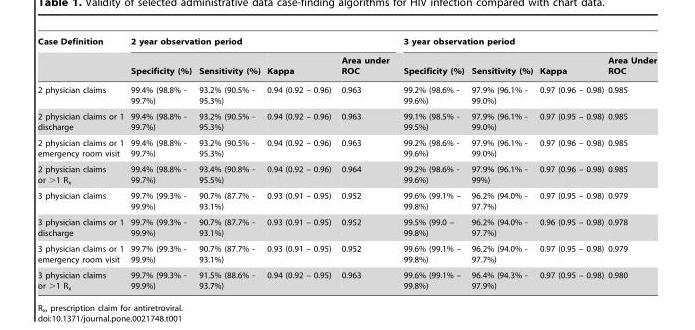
<table><thead><tr><td rowspan="2">Case Definition</td><td colspan="4">2 year observation period</td><td colspan="4">3 year observation period</td></tr><tr><td>Specificity (%)</td><td>Sensitivity (%)</td><td>Kappa</td><td>Area under ROC</td><td>Specificity (%)</td><td>Sensitivity (%)</td><td>Kappa</td><td>Area Under ROC</td></tr></thead><tbody><tr><td>2 physician claims</td><td>99.4% (98.8% - 99.7%)</td><td>93.2% (90.5% - 95.3%)</td><td>0.94 (0.92 – 0.96)</td><td>0.963</td><td>99.2% (98.6% - 99.6%)</td><td>97.9% (96.1% - 99.0%)</td><td>0.97 (0.96 – 0.98)</td><td>0.985</td></tr><tr><td>2 physician claims or 1 discharge</td><td>99.4% (98.8% - 99.7%)</td><td>93.2% (90.5% - 95.3%)</td><td>0.94 (0.92 – 0.96)</td><td>0.963</td><td>99.1% (98.5% - 99.5%)</td><td>97.9% (96.1% - 99.0%)</td><td>0.97 (0.95 – 0.98)</td><td>0.985</td></tr><tr><td>2 physician claims or 1 emergency room visit</td><td>99.4% (98.8% - 99.7%)</td><td>93.2% (90.5% - 95.3%)</td><td>0.94 (0.92 – 0.96)</td><td>0.963</td><td>99.2% (98.6% - 99.6%)</td><td>97.9% (96.1% - 99.0%)</td><td>0.97 (0.96 – 0.98)</td><td>0.985</td></tr><tr><td>2 physician claims or &gt;1 R<sub>x</sub></td><td>99.4% (98.8% - 99.7%)</td><td>93.4% (90.8% - 95.5%)</td><td>0.94 (0.92 – 0.96)</td><td>0.964</td><td>99.2% (98.6% - 99.6%)</td><td>97.9% (96.1% - 99%)</td><td>0.97 (0.96 – 0.98)</td><td>0.985</td></tr><tr><td>3 physician claims</td><td>99.7% (99.3% - 99.9%)</td><td>90.7% (87.7% - 93.1%)</td><td>0.93 (0.91 – 0.95)</td><td>0.952</td><td>99.6% (99.1% – 99.8%)</td><td>96.2% (94.0% - 97.7%)</td><td>0.97 (0.95 – 0.98)</td><td>0.979</td></tr><tr><td>3 physician claims or 1 discharge</td><td>99.7% (99.3% - 99.9%)</td><td>90.7% (87.7% - 93.1%)</td><td>0.93 (0.91 – 0.95)</td><td>0.952</td><td>99.5% (99.0 – 99.8%)</td><td>96.2% (94.0% - 97.7%)</td><td>0.96 (0.95 – 0.98)</td><td>0.978</td></tr><tr><td>3 physician claims or 1 emergency room visit</td><td>99.7% (99.3% - 99.9%)</td><td>90.7% (87.7% - 93.1%)</td><td>0.93 (0.91 – 0.95)</td><td>0.952</td><td>99.6% (99.1% – 99.8%)</td><td>96.2% (94.0% - 97.7%)</td><td>0.97 (0.95 – 0.98)</td><td>0.979</td></tr><tr><td>3 physician claims or &gt;1 R<sub>x</sub></td><td>99.7% (99.3% - 99.9%)</td><td>91.5% (88.6% - 93.7%)</td><td>0.94 (0.92 – 0.95)</td><td>0.963</td><td>99.6% (99.1% – 99.8%)</td><td>96.4% (94.3% - 97.9%)</td><td>0.97 (0.95 – 0.98)</td><td>0.980</td></tr></tbody></table>